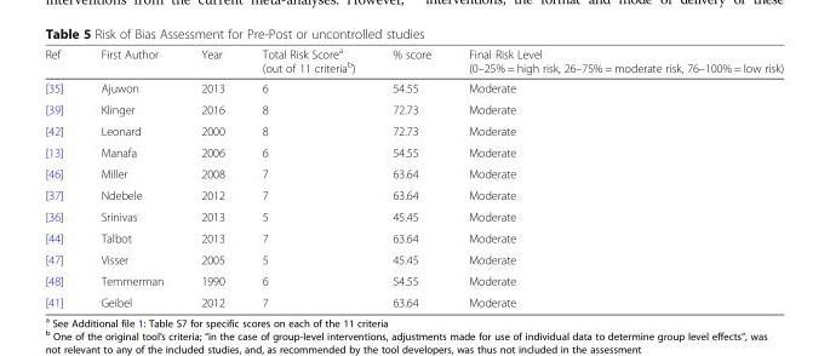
<table><thead><tr><td>Ref</td><td>First Author</td><td>Year</td><td>Total Risk Score<sup>a</sup> (out of 11 criteria<sup>b</sup>)</td><td>% score</td><td>Final Risk Level (0–25% = high risk, 26–75% = moderate risk, 76–100% = low risk)</td></tr></thead><tbody><tr><td>[35]</td><td>Ajuwon</td><td>2013</td><td>6</td><td>54.55</td><td>Moderate</td></tr><tr><td>[39]</td><td>Klinger</td><td>2016</td><td>8</td><td>72.73</td><td>Moderate</td></tr><tr><td>[42]</td><td>Leonard</td><td>2000</td><td>8</td><td>72.73</td><td>Moderate</td></tr><tr><td>[13]</td><td>Manafa</td><td>2006</td><td>6</td><td>54.55</td><td>Moderate</td></tr><tr><td>[46]</td><td>Miller</td><td>2008</td><td>7</td><td>63.64</td><td>Moderate</td></tr><tr><td>[37]</td><td>Ndebele</td><td>2012</td><td>7</td><td>63.64</td><td>Moderate</td></tr><tr><td>[36]</td><td>Srinivas</td><td>2013</td><td>5</td><td>45.45</td><td>Moderate</td></tr><tr><td>[44]</td><td>Talbot</td><td>2013</td><td>7</td><td>63.64</td><td>Moderate</td></tr><tr><td>[47]</td><td>Visser</td><td>2005</td><td>5</td><td>45.45</td><td>Moderate</td></tr><tr><td>[48]</td><td>Temmerman</td><td>1990</td><td>6</td><td>54.55</td><td>Moderate</td></tr><tr><td>[41]</td><td>Geibel</td><td>2012</td><td>7</td><td>63.64</td><td>Moderate</td></tr></tbody></table>